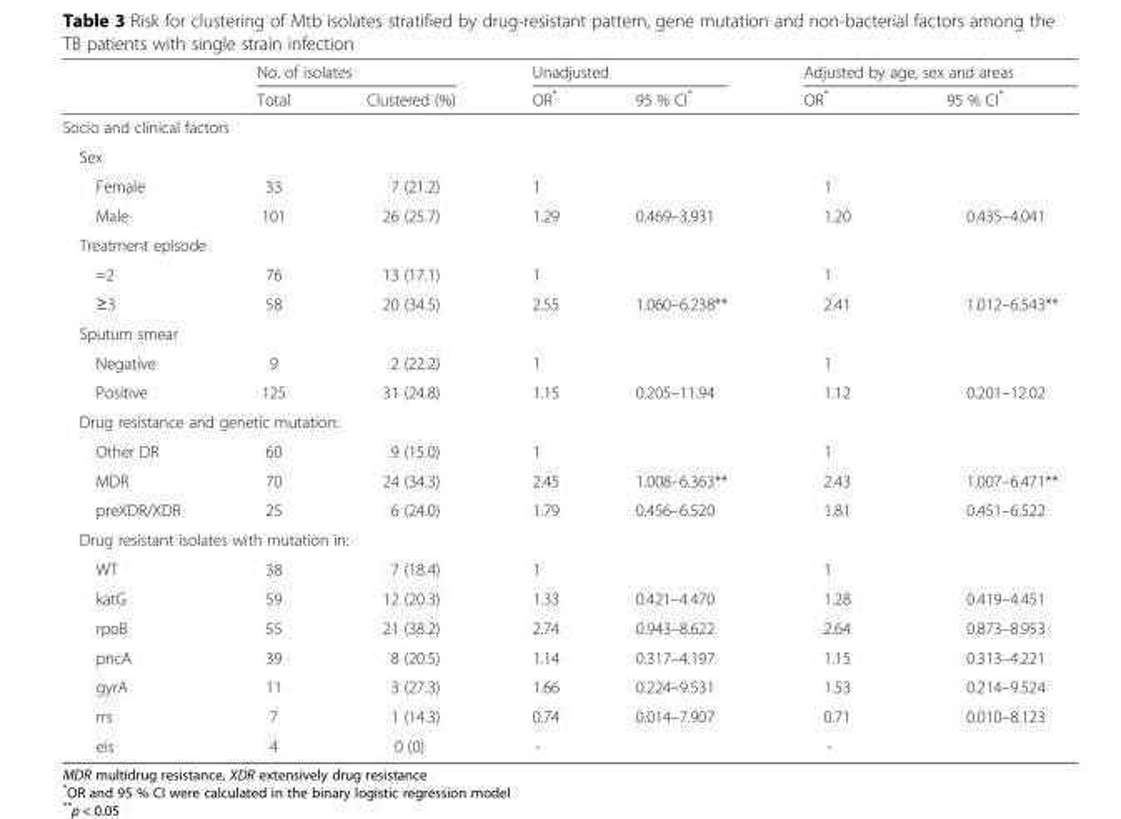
<table><thead><tr><td rowspan="2"></td><td colspan="2">No. of isolates</td><td colspan="2">Unadjusted</td><td colspan="2">Adjusted by age, sex and areas</td></tr><tr><td>Total</td><td>Clustered (%)</td><td>OR*</td><td>95 % CI*</td><td>OR*</td><td>95 % CI*</td></tr></thead><tbody><tr><td colspan="7">Socio and clinical factors</td></tr><tr><td colspan="7">Sex</td></tr><tr><td>Female</td><td>33</td><td>7 (21.2)</td><td>1</td><td></td><td>1</td><td></td></tr><tr><td>Male</td><td>101</td><td>26 (25.7)</td><td>1.29</td><td>0.469–3.931</td><td>1.20</td><td>0.435–4.041</td></tr><tr><td colspan="7">Treatment episode</td></tr><tr><td>=2</td><td>76</td><td>13 (17.1)</td><td>1</td><td></td><td>1</td><td></td></tr><tr><td>≥3</td><td>58</td><td>20 (34.5)</td><td>2.55</td><td>1.060–6.238**</td><td>2.41</td><td>1.012–6.543**</td></tr><tr><td colspan="7">Sputum smear</td></tr><tr><td>Negative</td><td>9</td><td>2 (22.2)</td><td>1</td><td></td><td>1</td><td></td></tr><tr><td>Positive</td><td>125</td><td>31 (24.8)</td><td>1.15</td><td>0.205–11.94</td><td>1.12</td><td>0.201–12.02</td></tr><tr><td colspan="7">Drug resistance and genetic mutation:</td></tr><tr><td>Other DR</td><td>60</td><td>9 (15.0)</td><td>1</td><td></td><td>1</td><td></td></tr><tr><td>MDR</td><td>70</td><td>24 (34.3)</td><td>2.45</td><td>1.008–6.363**</td><td>2.43</td><td>1.007–6.471**</td></tr><tr><td>preXDR/XDR</td><td>25</td><td>6 (24.0)</td><td>1.79</td><td>0.456–6.520</td><td>1.81</td><td>0.451–6.522</td></tr><tr><td colspan="7">Drug resistant isolates with mutation in:</td></tr><tr><td>WT</td><td>38</td><td>7 (18.4)</td><td>1</td><td></td><td>1</td><td></td></tr><tr><td>katG</td><td>59</td><td>12 (20.3)</td><td>1.33</td><td>0.421–4.470</td><td>1.28</td><td>0.419–4.451</td></tr><tr><td>rpoB</td><td>55</td><td>21 (38.2)</td><td>2.74</td><td>0.943–8.622</td><td>2.64</td><td>0.873–8.953</td></tr><tr><td>pncA</td><td>39</td><td>8 (20.5)</td><td>1.14</td><td>0.317–4.197</td><td>1.15</td><td>0.313–4.221</td></tr><tr><td>gyrA</td><td>11</td><td>3 (27.3)</td><td>1.66</td><td>0.224–9.531</td><td>1.53</td><td>0.214–9.524</td></tr><tr><td>rrs</td><td>7</td><td>1 (14.3)</td><td>0.74</td><td>0.014–7.907</td><td>0.71</td><td>0.010–8.123</td></tr><tr><td>eis</td><td>4</td><td>0 (0)</td><td>-</td><td></td><td>-</td><td></td></tr></tbody></table>